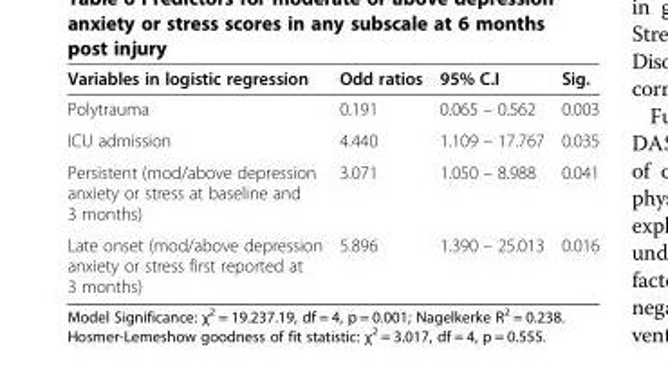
<table><thead><tr><td>Variables in logistic regression</td><td>Odd ratios</td><td>95% C.I</td><td>Sig.</td></tr></thead><tbody><tr><td>Polytrauma</td><td>0.191</td><td>0.065 – 0.562</td><td>0.003</td></tr><tr><td>ICU admission</td><td>4.440</td><td>1.109 – 17.767</td><td>0.035</td></tr><tr><td>Persistent (mod/above depression anxiety or stress at baseline and 3 months)</td><td>3.071</td><td>1.050 – 8.988</td><td>0.041</td></tr><tr><td>Late onset (mod/above depression anxiety or stress first reported at 3 months)</td><td>5.896</td><td>1.390 – 25.013</td><td>0.016</td></tr></tbody></table>